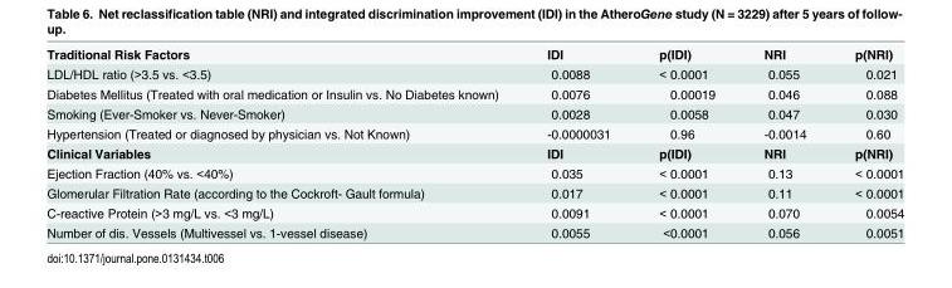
<table><tbody><tr><td>Traditional Risk Factors</td><td>IDI</td><td>p(IDI)</td><td>NRI</td><td>p(NRI)</td></tr><tr><td>LDL/HDL ratio (&gt;3.5 vs. &lt;3.5)</td><td>0.0088</td><td>&lt; 0.0001</td><td>0.055</td><td>0.021</td></tr><tr><td>Diabetes Mellitus (Treated with oral medication or Insulin vs. No Diabetes known)</td><td>0.0076</td><td>0.00019</td><td>0.046</td><td>0.088</td></tr><tr><td>Smoking (Ever-Smoker vs. Never-Smoker)</td><td>0.0028</td><td>0.0058</td><td>0.047</td><td>0.030</td></tr><tr><td>Hypertension (Treated or diagnosed by physician vs. Not Known)</td><td>-0.0000031</td><td>0.96</td><td>-0.0014</td><td>0.60</td></tr><tr><td>Clinical Variables</td><td>IDI</td><td>p(IDI)</td><td>NRI</td><td>p(NRI)</td></tr><tr><td>Ejection Fraction (40% vs. &lt;40%)</td><td>0.035</td><td>&lt; 0.0001</td><td>0.13</td><td>&lt; 0.0001</td></tr><tr><td>Glomerular Filtration Rate (according to the Cockroft- Gault formula)</td><td>0.017</td><td>&lt; 0.0001</td><td>0.11</td><td>&lt; 0.0001</td></tr><tr><td>C-reactive Protein (&gt;3 mg/L vs. &lt;3 mg/L)</td><td>0.0091</td><td>&lt; 0.0001</td><td>0.070</td><td>0.0054</td></tr><tr><td>Number of dis. Vessels (Multivessel vs. 1-vessel disease)</td><td>0.0055</td><td>&lt;0.0001</td><td>0.056</td><td>0.0051</td></tr></tbody></table>